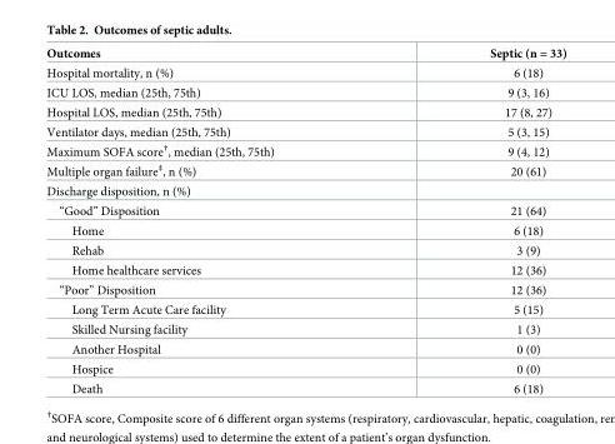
<table><thead><tr><td>Outcomes</td><td>Septic (n = 33)</td></tr></thead><tbody><tr><td>Hospital mortality, n (%)</td><td>6 (18)</td></tr><tr><td>ICU LOS, median (25th, 75th)</td><td>9 (3, 16)</td></tr><tr><td>Hospital LOS, median (25th, 75th)</td><td>17 (8, 27)</td></tr><tr><td>Ventilator days, median (25th, 75th)</td><td>5 (3, 15)</td></tr><tr><td>Maximum SOFA score<sup>†</sup>, median (25th, 75th)</td><td>9 (4, 12)</td></tr><tr><td>Multiple organ failure<sup>‡</sup>, n (%)</td><td>20 (61)</td></tr><tr><td colspan="2">Discharge disposition, n (%)</td></tr><tr><td>“Good” Disposition</td><td>21 (64)</td></tr><tr><td>Home</td><td>6 (18)</td></tr><tr><td>Rehab</td><td>3 (9)</td></tr><tr><td>Home healthcare services</td><td>12 (36)</td></tr><tr><td>“Poor” Disposition</td><td>12 (36)</td></tr><tr><td>Long Term Acute Care facility</td><td>5 (15)</td></tr><tr><td>Skilled Nursing facility</td><td>1 (3)</td></tr><tr><td>Another Hospital</td><td>0 (0)</td></tr><tr><td>Hospice</td><td>0 (0)</td></tr><tr><td>Death</td><td>6 (18)</td></tr></tbody></table>